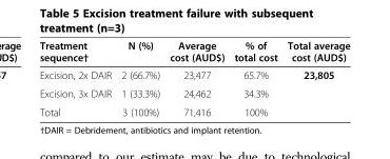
<table><thead><tr><td>Treatment sequence†</td><td>N (%)</td><td>Average cost (AUD$)</td><td>% of total cost</td><td>Total average cost (AUD$)</td></tr></thead><tbody><tr><td>Excision, 2x DAIR</td><td>2 (66.7%)</td><td>23,477</td><td>65.7%</td><td rowspan="2">23,805</td></tr><tr><td>Excision, 3x DAIR</td><td>1 (33.3%)</td><td>24,462</td><td>34.3%</td></tr><tr><td>Total</td><td>3 (100%)</td><td>71,416</td><td>100%</td><td></td></tr></tbody></table>